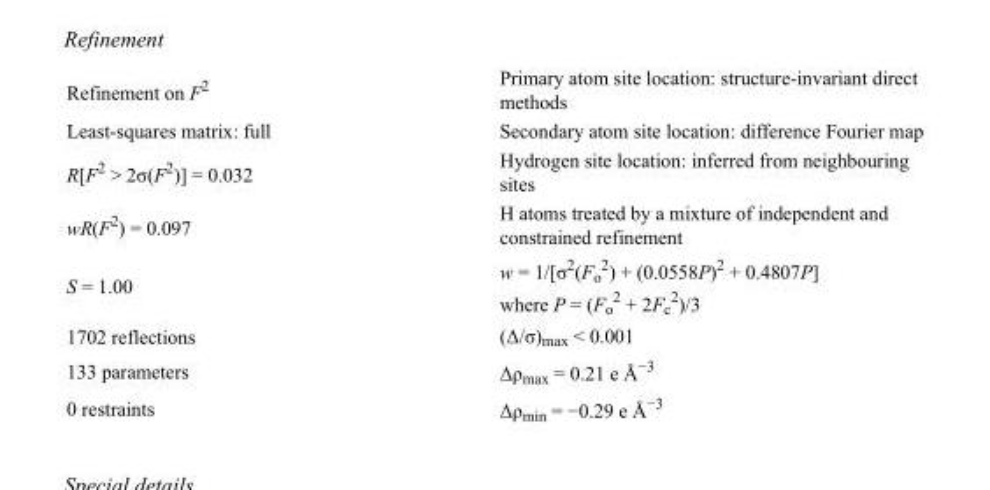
<table><tbody><tr><td>Refinement on F<sup>2</sup></td><td>Primary atom site location: structure-invariant direct methods</td></tr><tr><td>Least-squares matrix: full</td><td>Secondary atom site location: difference Fourier map</td></tr><tr><td>R[F<sup>2</sup> &gt; 2σ(F<sup>2</sup>)] = 0.032</td><td>Hydrogen site location: inferred from neighbouring sites</td></tr><tr><td>wR(F<sup>2</sup>) = 0.097</td><td>H atoms treated by a mixture of independent and constrained refinement</td></tr><tr><td>S = 1.00</td><td>w = 1/[σ<sup>2</sup>(F<sub>o</sub> <sup>2</sup>) + (0.0558P)<sup>2</sup> + 0.4807P] where P = (F<sub>o</sub> <sup>2</sup> + 2F<sub>c</sub> <sup>2</sup>)/3</td></tr><tr><td>1702 reflections</td><td>(Δ/σ)<sub>max</sub> &lt; 0.001</td></tr><tr><td>133 parameters</td><td>Δρ<sub>max</sub> = 0.21 e Å<sup>−3</sup></td></tr><tr><td>0 restraints</td><td>Δρ<sub>min</sub> = −0.29 e Å<sup>−3</sup></td></tr></tbody></table>